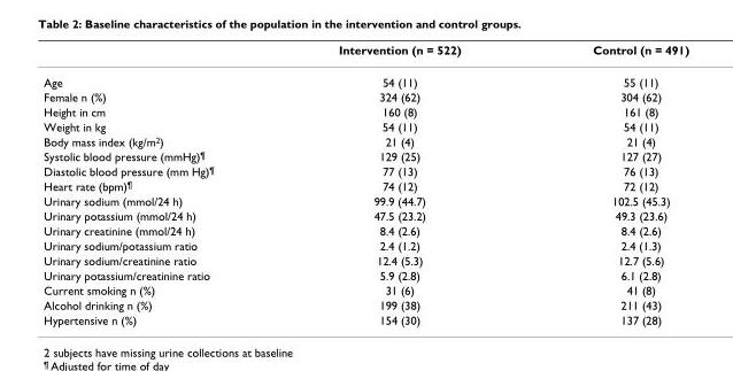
<table><thead><tr><td></td><td>Intervention (n = 522)</td><td>Control (n = 491)</td></tr></thead><tbody><tr><td>Age</td><td>54 (11)</td><td>55 (11)</td></tr><tr><td>Female n (%)</td><td>324 (62)</td><td>304 (62)</td></tr><tr><td>Height in cm</td><td>160 (8)</td><td>161 (8)</td></tr><tr><td>Weight in kg</td><td>54 (11)</td><td>54 (11)</td></tr><tr><td>Body mass index (kg/m2)</td><td>21 (4)</td><td>21 (4)</td></tr><tr><td>Systolic blood pressure (mmHg)¶</td><td>129 (25)</td><td>127 (27)</td></tr><tr><td>Diastolic blood pressure (mm Hg)¶</td><td>77 (13)</td><td>76 (13)</td></tr><tr><td>Heart rate (bpm)¶</td><td>74 (12)</td><td>72 (12)</td></tr><tr><td>Urinary sodium (mmol/24 h)</td><td>99.9 (44.7)</td><td>102.5 (45.3)</td></tr><tr><td>Urinary potassium (mmol/24 h)</td><td>47.5 (23.2)</td><td>49.3 (23.6)</td></tr><tr><td>Urinary creatinine (mmol/24 h)</td><td>8.4 (2.6)</td><td>8.4 (2.6)</td></tr><tr><td>Urinary sodium/potassium ratio</td><td>2.4 (1.2)</td><td>2.4 (1.3)</td></tr><tr><td>Urinary sodium/creatinine ratio</td><td>12.4 (5.3)</td><td>12.7 (5.6)</td></tr><tr><td>Urinary potassium/creatinine ratio</td><td>5.9 (2.8)</td><td>6.1 (2.8)</td></tr><tr><td>Current smoking n (%)</td><td>31 (6)</td><td>41 (8)</td></tr><tr><td>Alcohol drinking n (%)</td><td>199 (38)</td><td>211 (43)</td></tr><tr><td>Hypertensive n (%)</td><td>154 (30)</td><td>137 (28)</td></tr></tbody></table>